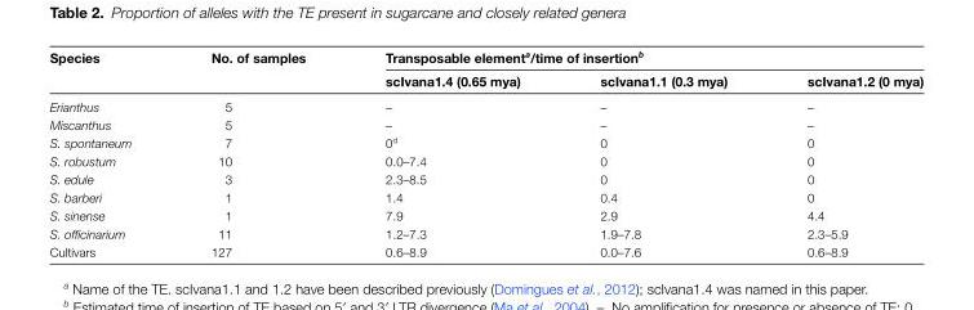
<table><thead><tr><td rowspan="2">Species</td><td rowspan="2">No. of samples</td><td colspan="3">Transposable element<sup>a</sup>/time of insertion<sup>b</sup></td></tr><tr><td>scIvana1.4 (0.65 mya)</td><td>scIvana1.1 (0.3 mya)</td><td>scIvana1.2 (0 mya)</td></tr></thead><tbody><tr><td>Erianthus</td><td>5</td><td>–</td><td>–</td><td>–</td></tr><tr><td>Miscanthus</td><td>5</td><td>–</td><td>–</td><td>–</td></tr><tr><td>S. spontaneum</td><td>7</td><td>0<sup>d</sup></td><td>0</td><td>0</td></tr><tr><td>S. robustum</td><td>10</td><td>0.0–7.4</td><td>0</td><td>0</td></tr><tr><td>S. edule</td><td>3</td><td>2.3–8.5</td><td>0</td><td>0</td></tr><tr><td>S. barberi</td><td>1</td><td>1.4</td><td>0.4</td><td>0</td></tr><tr><td>S. sinense</td><td>1</td><td>7.9</td><td>2.9</td><td>4.4</td></tr><tr><td>S. officinarium</td><td>11</td><td>1.2–7.3</td><td>1.9–7.8</td><td>2.3–5.9</td></tr><tr><td>Cultivars</td><td>127</td><td>0.6–8.9</td><td>0.0–7.6</td><td>0.6–8.9</td></tr></tbody></table>